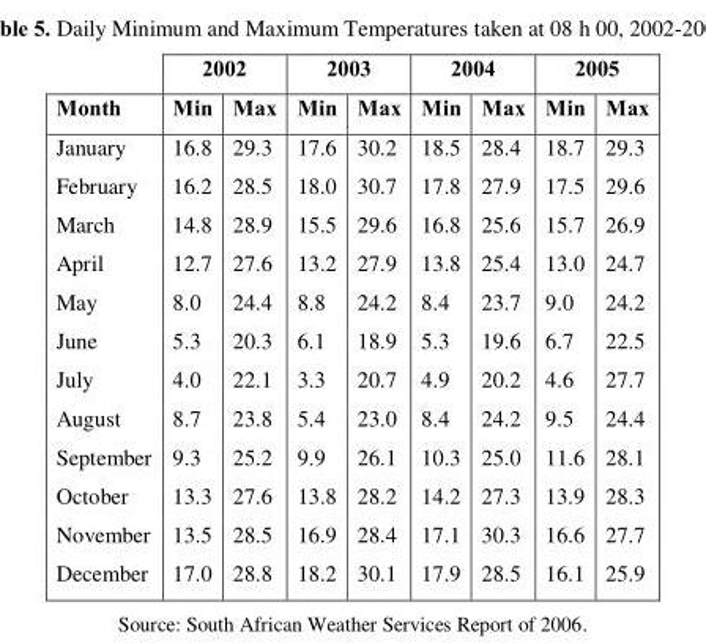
<table><thead><tr><td rowspan="2">Month</td><td colspan="2">2002</td><td colspan="2">2003</td><td colspan="2">2004</td><td colspan="2">2005</td></tr><tr><td>Min</td><td>Max</td><td>Min</td><td>Max</td><td>Min</td><td>Max</td><td>Min</td><td>Max</td></tr></thead><tbody><tr><td>January</td><td>16.8</td><td>29.3</td><td>17.6</td><td>30.2</td><td>18.5</td><td>28.4</td><td>18.7</td><td>29.3</td></tr><tr><td>February</td><td>16.2</td><td>28.5</td><td>18.0</td><td>30.7</td><td>17.8</td><td>27.9</td><td>17.5</td><td>29.6</td></tr><tr><td>March</td><td>14.8</td><td>28.9</td><td>15.5</td><td>29.6</td><td>16.8</td><td>25.6</td><td>15.7</td><td>26.9</td></tr><tr><td>April</td><td>12.7</td><td>27.6</td><td>13.2</td><td>27.9</td><td>13.8</td><td>25.4</td><td>13.0</td><td>24.7</td></tr><tr><td>May</td><td>8.0</td><td>24.4</td><td>8.8</td><td>24.2</td><td>8.4</td><td>23.7</td><td>9.0</td><td>24.2</td></tr><tr><td>June</td><td>5.3</td><td>20.3</td><td>6.1</td><td>18.9</td><td>5.3</td><td>19.6</td><td>6.7</td><td>22.5</td></tr><tr><td>July</td><td>4.0</td><td>22.1</td><td>3.3</td><td>20.7</td><td>4.9</td><td>20.2</td><td>4.6</td><td>27.7</td></tr><tr><td>August</td><td>8.7</td><td>23.8</td><td>5.4</td><td>23.0</td><td>8.4</td><td>24.2</td><td>9.5</td><td>24.4</td></tr><tr><td>September</td><td>9.3</td><td>25.2</td><td>9.9</td><td>26.1</td><td>10.3</td><td>25.0</td><td>11.6</td><td>28.1</td></tr><tr><td>October</td><td>13.3</td><td>27.6</td><td>13.8</td><td>28.2</td><td>14.2</td><td>27.3</td><td>13.9</td><td>28.3</td></tr><tr><td>November</td><td>13.5</td><td>28.5</td><td>16.9</td><td>28.4</td><td>17.1</td><td>30.3</td><td>16.6</td><td>27.7</td></tr><tr><td>December</td><td>17.0</td><td>28.8</td><td>18.2</td><td>30.1</td><td>17.9</td><td>28.5</td><td>16.1</td><td>25.9</td></tr></tbody></table>